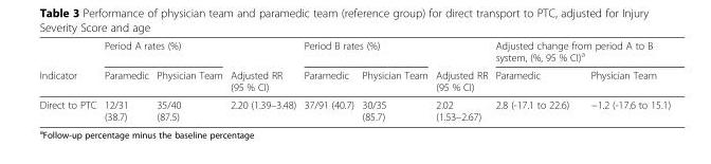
<table><thead><tr><td rowspan="2">Indicator</td><td colspan="2">Period A rates (%)</td><td rowspan="2">Adjusted RR (95 % CI)</td><td colspan="2">Period B rates (%)</td><td rowspan="2">Adjusted RR (95 % CI)</td><td colspan="2">Adjusted change from period A to B system, (%, 95 % CI)<sup>a</sup></td></tr><tr><td>Paramedic</td><td>Physician Team</td><td>Paramedic</td><td>Physician Team</td><td>Paramedic</td><td>Physician Team</td></tr></thead><tbody><tr><td>Direct to PTC</td><td>12/31 (38.7)</td><td>35/40 (87.5)</td><td>2.20 (1.39–3.48)</td><td>37/91 (40.7)</td><td>30/35 (85.7)</td><td>2.02 (1.53–2.67)</td><td>2.8 (-17.1 to 22.6)</td><td>−1.2 (-17.6 to 15.1)</td></tr></tbody></table>